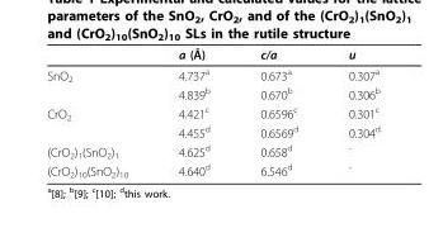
<table><thead><tr><td></td><td>a (Å)</td><td>c/a</td><td>u</td></tr></thead><tbody><tr><td rowspan="2">SnO<sub>2</sub></td><td>4.737<sup>a</sup></td><td>0.673<sup>a</sup></td><td>0.307<sup>a</sup></td></tr><tr><td>4.839<sup>b</sup></td><td>0.670<sup>b</sup></td><td>0.306<sup>b</sup></td></tr><tr><td rowspan="2">CrO<sub>2</sub></td><td>4.421<sup>c</sup></td><td>0.6596<sup>c</sup></td><td>0.301<sup>c</sup></td></tr><tr><td>4.455<sup>d</sup></td><td>0.6569<sup>d</sup></td><td>0.304<sup>d</sup></td></tr><tr><td>(CrO<sub>2</sub>)<sub>1</sub>(SnO<sub>2</sub>)<sub>1</sub></td><td>4.625<sup>d</sup></td><td>0.658<sup>d</sup></td><td><sup>-</sup></td></tr><tr><td>(CrO<sub>2</sub>)<sub>10</sub>(SnO<sub>2</sub>)<sub>10</sub></td><td>4.640<sup>d</sup></td><td>6.546<sup>d</sup></td><td><sup>-</sup></td></tr></tbody></table>